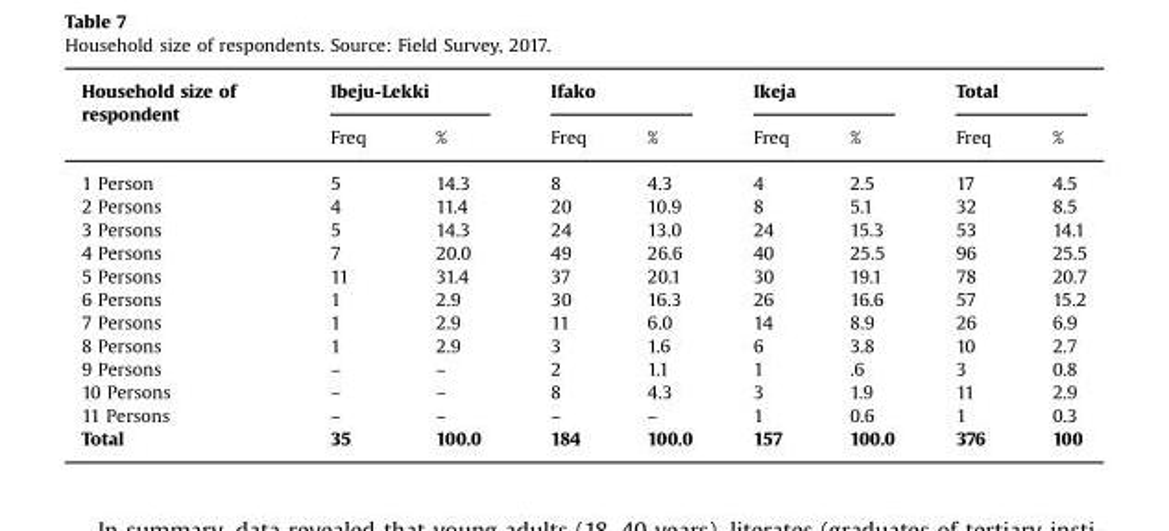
<table><thead><tr><td rowspan="2">Household size of respondent</td><td colspan="2">Ibeju-Lekki</td><td colspan="2">Ifako</td><td colspan="2">Ikeja</td><td colspan="2">Total</td></tr><tr><td>Freq</td><td>%</td><td>Freq</td><td>%</td><td>Freq</td><td>%</td><td>Freq</td><td>%</td></tr></thead><tbody><tr><td>1 Person</td><td>5</td><td>14.3</td><td>8</td><td>4.3</td><td>4</td><td>2.5</td><td>17</td><td>4.5</td></tr><tr><td>2 Persons</td><td>4</td><td>11.4</td><td>20</td><td>10.9</td><td>8</td><td>5.1</td><td>32</td><td>8.5</td></tr><tr><td>3 Persons</td><td>5</td><td>14.3</td><td>24</td><td>13.0</td><td>24</td><td>15.3</td><td>53</td><td>14.1</td></tr><tr><td>4 Persons</td><td>7</td><td>20.0</td><td>49</td><td>26.6</td><td>40</td><td>25.5</td><td>96</td><td>25.5</td></tr><tr><td>5 Persons</td><td>11</td><td>31.4</td><td>37</td><td>20.1</td><td>30</td><td>19.1</td><td>78</td><td>20.7</td></tr><tr><td>6 Persons</td><td>1</td><td>2.9</td><td>30</td><td>16.3</td><td>26</td><td>16.6</td><td>57</td><td>15.2</td></tr><tr><td>7 Persons</td><td>1</td><td>2.9</td><td>11</td><td>6.0</td><td>14</td><td>8.9</td><td>26</td><td>6.9</td></tr><tr><td>8 Persons</td><td>1</td><td>2.9</td><td>3</td><td>1.6</td><td>6</td><td>3.8</td><td>10</td><td>2.7</td></tr><tr><td>9 Persons</td><td>–</td><td>–</td><td>2</td><td>1.1</td><td>1</td><td>.6</td><td>3</td><td>0.8</td></tr><tr><td>10 Persons</td><td>–</td><td>–</td><td>8</td><td>4.3</td><td>3</td><td>1.9</td><td>11</td><td>2.9</td></tr><tr><td>11 Persons</td><td>–</td><td>–</td><td>–</td><td>–</td><td>1</td><td>0.6</td><td>1</td><td>0.3</td></tr><tr><td>Total</td><td>35</td><td>100.0</td><td>184</td><td>100.0</td><td>157</td><td>100.0</td><td>376</td><td>100</td></tr></tbody></table>